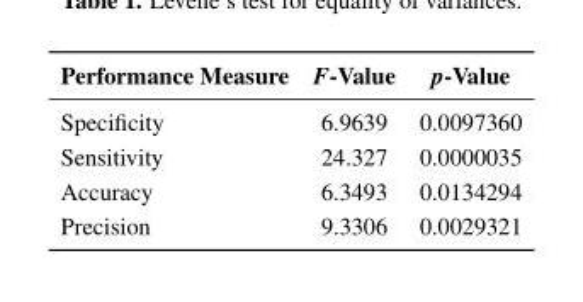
<table><thead><tr><td>Performance Measure</td><td>F-Value</td><td>p-Value</td></tr></thead><tbody><tr><td>Specificity</td><td>6.9639</td><td>0.0097360</td></tr><tr><td>Sensitivity</td><td>24.327</td><td>0.0000035</td></tr><tr><td>Accuracy</td><td>6.3493</td><td>0.0134294</td></tr><tr><td>Precision</td><td>9.3306</td><td>0.0029321</td></tr></tbody></table>